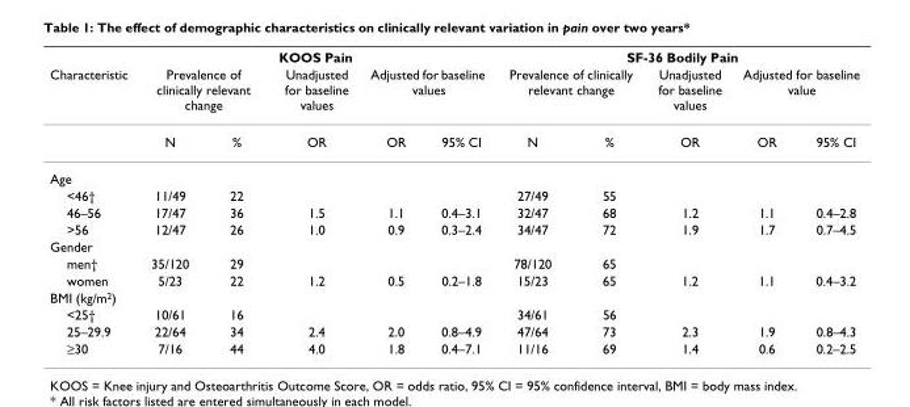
<table><thead><tr><td rowspan="3">Characteristic</td><td colspan="5">KOOS Pain</td><td colspan="5">SF-36 Bodily Pain</td></tr><tr><td colspan="2">Prevalence of clinically relevant change</td><td rowspan="2">Unadjusted for baseline values OR</td><td colspan="2">Adjusted for baseline values</td><td colspan="2">Prevalence of clinically relevant change</td><td rowspan="2">Unadjusted for baseline values OR</td><td colspan="2">Adjusted for baseline value</td></tr><tr><td>N</td><td>%</td><td>OR</td><td>95% CI</td><td>N</td><td>%</td><td>OR</td><td>95% CI</td></tr></thead><tbody><tr><td colspan="11">Age</td></tr><tr><td>&lt;46†</td><td>11/49</td><td>22</td><td></td><td></td><td></td><td>27/49</td><td>55</td><td></td><td></td><td></td></tr><tr><td>46–56</td><td>17/47</td><td>36</td><td>1.5</td><td>1.1</td><td>0.4–3.1</td><td>32/47</td><td>68</td><td>1.2</td><td>1.1</td><td>0.4–2.8</td></tr><tr><td>&gt;56</td><td>12/47</td><td>26</td><td>1.0</td><td>0.9</td><td>0.3–2.4</td><td>34/47</td><td>72</td><td>1.9</td><td>1.7</td><td>0.7–4.5</td></tr><tr><td colspan="11">Gender</td></tr><tr><td>men†</td><td>35/120</td><td>29</td><td></td><td></td><td></td><td>78/120</td><td>65</td><td></td><td></td><td></td></tr><tr><td>women</td><td>5/23</td><td>22</td><td>1.2</td><td>0.5</td><td>0.2–1.8</td><td>15/23</td><td>65</td><td>1.2</td><td>1.1</td><td>0.4–3.2</td></tr><tr><td colspan="11">BMI (kg/m<sup>2</sup>)</td></tr><tr><td>&lt;25†</td><td>10/61</td><td>16</td><td></td><td></td><td></td><td>34/61</td><td>56</td><td></td><td></td><td></td></tr><tr><td>25–29.9</td><td>22/64</td><td>34</td><td>2.4</td><td>2.0</td><td>0.8–4.9</td><td>47/64</td><td>73</td><td>2.3</td><td>1.9</td><td>0.8–4.3</td></tr><tr><td>≥30</td><td>7/16</td><td>44</td><td>4.0</td><td>1.8</td><td>0.4–7.1</td><td>11/16</td><td>69</td><td>1.4</td><td>0.6</td><td>0.2–2.5</td></tr></tbody></table>